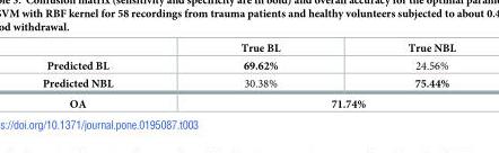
<table><thead><tr><td></td><td>True BL</td><td>True NBL</td></tr></thead><tbody><tr><td>Predicted BL</td><td>69.62%</td><td>24.56%</td></tr><tr><td>Predicted NBL</td><td>30.38%</td><td>75.44%</td></tr><tr><td>OA</td><td colspan="2">71.74%</td></tr></tbody></table>